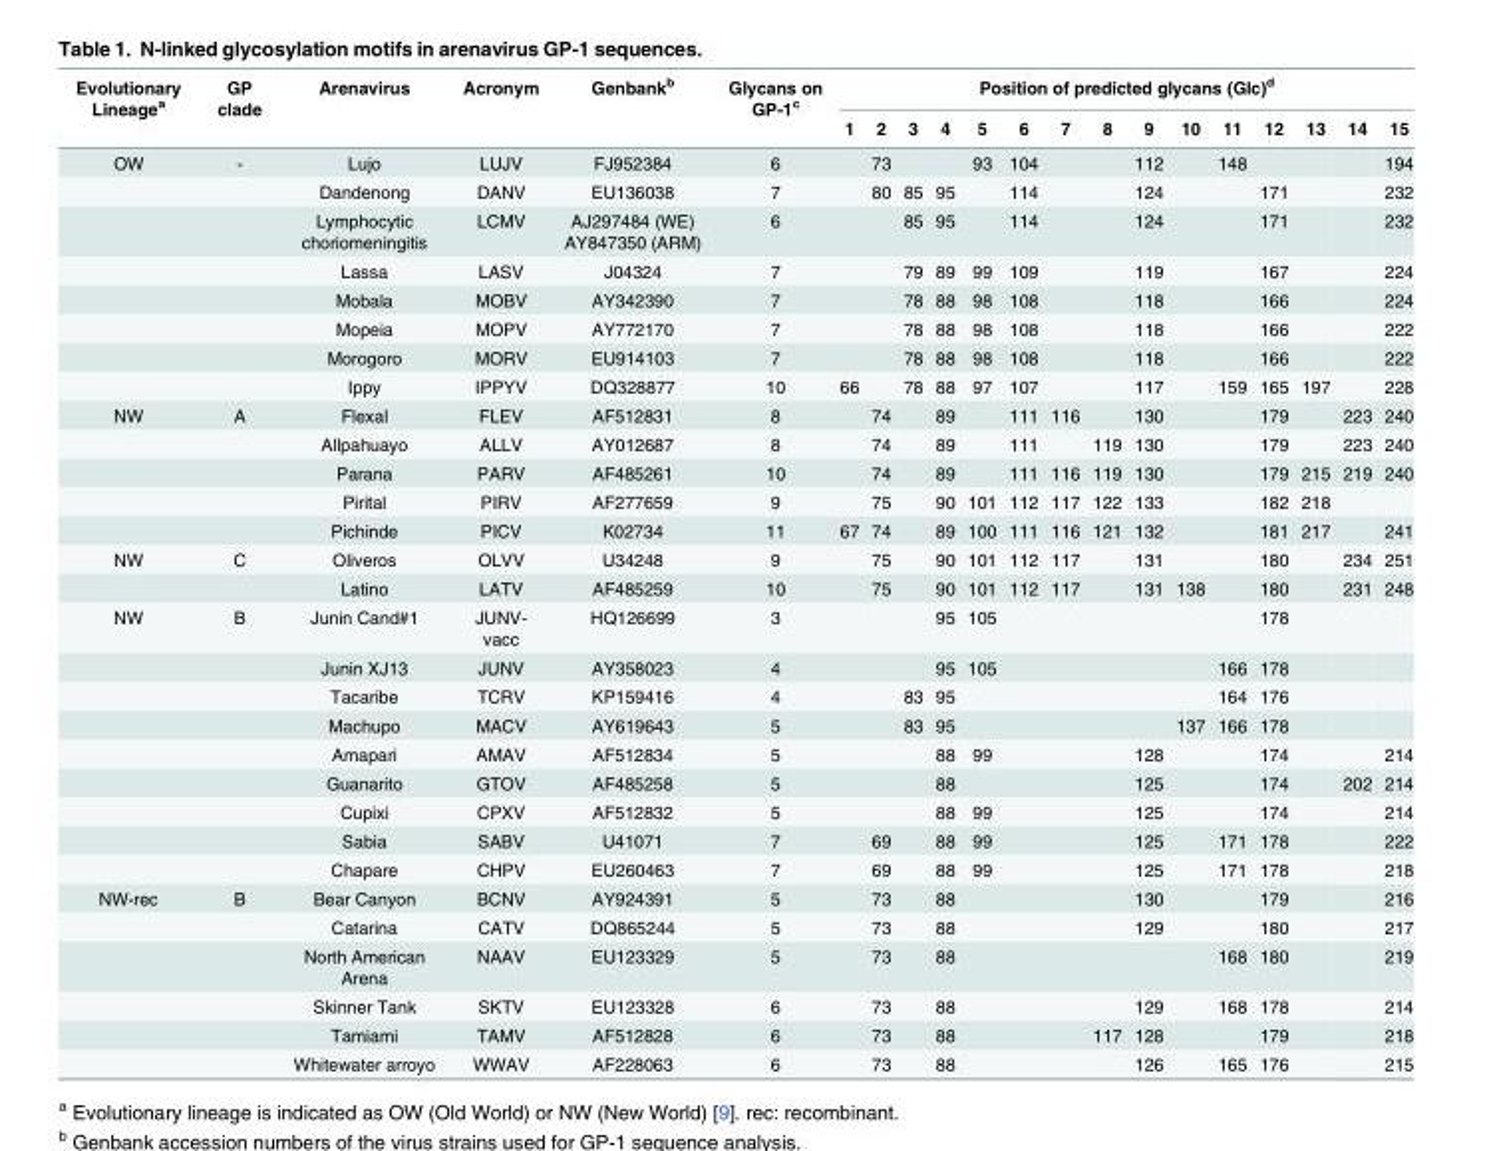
<table><thead><tr><td rowspan="2">Evolutionary Lineage<sup>a</sup></td><td rowspan="2">GP clade</td><td rowspan="2">Arenavirus</td><td rowspan="2">Acronym</td><td rowspan="2">Genbank<sup>b</sup></td><td rowspan="2">Glycans on GP-1<sup>c</sup></td><td colspan="15">Position of predicted glycans (Glc)<sup>d</sup></td></tr><tr><td>1</td><td>2</td><td>3</td><td>4</td><td>5</td><td>6</td><td>7</td><td>8</td><td>9</td><td>10</td><td>11</td><td>12</td><td>13</td><td>14</td><td>15</td></tr></thead><tbody><tr><td rowspan="8">OW</td><td>-</td><td>Lujo</td><td>LUJV</td><td>FJ952384</td><td>6</td><td></td><td>73</td><td></td><td></td><td>93</td><td>104</td><td></td><td></td><td>112</td><td></td><td>148</td><td></td><td></td><td></td><td>194</td></tr><tr><td></td><td>Dandenong</td><td>DANV</td><td>EU136038</td><td>7</td><td></td><td>80</td><td>85</td><td>95</td><td></td><td>114</td><td></td><td></td><td>124</td><td></td><td></td><td>171</td><td></td><td></td><td>232</td></tr><tr><td></td><td>Lymphocytic choriomeningitis</td><td>LCMV</td><td>AJ297484 (WE) AY847350 (ARM)</td><td>6</td><td></td><td></td><td>85</td><td>95</td><td></td><td>114</td><td></td><td></td><td>124</td><td></td><td></td><td>171</td><td></td><td></td><td>232</td></tr><tr><td></td><td>Lassa</td><td>LASV</td><td>J04324</td><td>7</td><td></td><td></td><td>79</td><td>89</td><td>99</td><td>109</td><td></td><td></td><td>119</td><td></td><td></td><td>167</td><td></td><td></td><td>224</td></tr><tr><td></td><td>Mobala</td><td>MOBV</td><td>AY342390</td><td>7</td><td></td><td></td><td>78</td><td>88</td><td>98</td><td>108</td><td></td><td></td><td>118</td><td></td><td></td><td>166</td><td></td><td></td><td>224</td></tr><tr><td></td><td>Mopeia</td><td>MOPV</td><td>AY772170</td><td>7</td><td></td><td></td><td>78</td><td>88</td><td>98</td><td>108</td><td></td><td></td><td>118</td><td></td><td></td><td>166</td><td></td><td></td><td>222</td></tr><tr><td></td><td>Morogoro</td><td>MORV</td><td>EU914103</td><td>7</td><td></td><td></td><td>78</td><td>88</td><td>98</td><td>108</td><td></td><td></td><td>118</td><td></td><td></td><td>166</td><td></td><td></td><td>222</td></tr><tr><td></td><td>Ippy</td><td>IPPYV</td><td>DQ328877</td><td>10</td><td>66</td><td></td><td>78</td><td>88</td><td>97</td><td>107</td><td></td><td></td><td>117</td><td></td><td>159</td><td>165</td><td>197</td><td></td><td>228</td></tr><tr><td rowspan="5">NW</td><td>A</td><td>Flexal</td><td>FLEV</td><td>AF512831</td><td>8</td><td></td><td>74</td><td></td><td>89</td><td></td><td>111</td><td>116</td><td></td><td>130</td><td></td><td></td><td>179</td><td></td><td>223</td><td>240</td></tr><tr><td></td><td>Allpahuayo</td><td>ALLV</td><td>AY012687</td><td>8</td><td></td><td>74</td><td></td><td>89</td><td></td><td>111</td><td></td><td>119</td><td>130</td><td></td><td></td><td>179</td><td></td><td>223</td><td>240</td></tr><tr><td></td><td>Parana</td><td>PARV</td><td>AF485261</td><td>10</td><td></td><td>74</td><td></td><td>89</td><td></td><td>111</td><td>116</td><td>119</td><td>130</td><td></td><td></td><td>179</td><td>215</td><td>219</td><td>240</td></tr><tr><td></td><td>Pirital</td><td>PIRV</td><td>AF277659</td><td>9</td><td></td><td>75</td><td></td><td>90</td><td>101</td><td>112</td><td>117</td><td>122</td><td>133</td><td></td><td></td><td>182</td><td>218</td><td></td><td></td></tr><tr><td></td><td>Pichinde</td><td>PICV</td><td>K02734</td><td>11</td><td>67</td><td>74</td><td></td><td>89</td><td>100</td><td>111</td><td>116</td><td>121</td><td>132</td><td></td><td></td><td>181</td><td>217</td><td></td><td>241</td></tr><tr><td rowspan="2">NW</td><td>C</td><td>Oliveros</td><td>OLVV</td><td>U34248</td><td>9</td><td></td><td>75</td><td></td><td>90</td><td>101</td><td>112</td><td>117</td><td></td><td>131</td><td></td><td></td><td>180</td><td></td><td>234</td><td>251</td></tr><tr><td></td><td>Latino</td><td>LATV</td><td>AF485259</td><td>10</td><td></td><td>75</td><td></td><td>90</td><td>101</td><td>112</td><td>117</td><td></td><td>131</td><td>138</td><td></td><td>180</td><td></td><td>231</td><td>248</td></tr><tr><td rowspan="9">NW</td><td>B</td><td>Junin Cand#1</td><td>JUNV- vacc</td><td>HQ126699</td><td>3</td><td></td><td></td><td></td><td>95</td><td>105</td><td></td><td></td><td></td><td></td><td></td><td></td><td>178</td><td></td><td></td><td></td></tr><tr><td></td><td>Junin XJ13</td><td>JUNV</td><td>AY358023</td><td>4</td><td></td><td></td><td></td><td>95</td><td>105</td><td></td><td></td><td></td><td></td><td></td><td>166</td><td>178</td><td></td><td></td><td></td></tr><tr><td></td><td>Tacaribe</td><td>TCRV</td><td>KP159416</td><td>4</td><td></td><td></td><td>83</td><td>95</td><td></td><td></td><td></td><td></td><td></td><td></td><td>164</td><td>176</td><td></td><td></td><td></td></tr><tr><td></td><td>Machupo</td><td>MACV</td><td>AY619643</td><td>5</td><td></td><td></td><td>83</td><td>95</td><td></td><td></td><td></td><td></td><td></td><td>137</td><td>166</td><td>178</td><td></td><td></td><td></td></tr><tr><td></td><td>Amapari</td><td>AMAV</td><td>AF512834</td><td>5</td><td></td><td></td><td></td><td>88</td><td>99</td><td></td><td></td><td></td><td>128</td><td></td><td></td><td>174</td><td></td><td></td><td>214</td></tr><tr><td></td><td>Guanarito</td><td>GTOV</td><td>AF485258</td><td>5</td><td></td><td></td><td></td><td>88</td><td></td><td></td><td></td><td></td><td>125</td><td></td><td></td><td>174</td><td></td><td>202</td><td>214</td></tr><tr><td></td><td>Cupixi</td><td>CPXV</td><td>AF512832</td><td>5</td><td></td><td></td><td></td><td>88</td><td>99</td><td></td><td></td><td></td><td>125</td><td></td><td></td><td>174</td><td></td><td></td><td>214</td></tr><tr><td></td><td>Sabia</td><td>SABV</td><td>U41071</td><td>7</td><td></td><td>69</td><td></td><td>88</td><td>99</td><td></td><td></td><td></td><td>125</td><td></td><td>171</td><td>178</td><td></td><td></td><td>222</td></tr><tr><td></td><td>Chapare</td><td>CHPV</td><td>EU260463</td><td>7</td><td></td><td>69</td><td></td><td>88</td><td>99</td><td></td><td></td><td></td><td>125</td><td></td><td>171</td><td>178</td><td></td><td></td><td>218</td></tr><tr><td rowspan="6">NW-rec</td><td>B</td><td>Bear Canyon</td><td>BCNV</td><td>AY924391</td><td>5</td><td></td><td>73</td><td></td><td>88</td><td></td><td></td><td></td><td></td><td>130</td><td></td><td></td><td>179</td><td></td><td></td><td>216</td></tr><tr><td></td><td>Catarina</td><td>CATV</td><td>DQ865244</td><td>5</td><td></td><td>73</td><td></td><td>88</td><td></td><td></td><td></td><td></td><td>129</td><td></td><td></td><td>180</td><td></td><td></td><td>217</td></tr><tr><td></td><td>North American Arena</td><td>NAAV</td><td>EU123329</td><td>5</td><td></td><td>73</td><td></td><td>88</td><td></td><td></td><td></td><td></td><td></td><td></td><td>168</td><td>180</td><td></td><td></td><td>219</td></tr><tr><td></td><td>Skinner Tank</td><td>SKTV</td><td>EU123328</td><td>6</td><td></td><td>73</td><td></td><td>88</td><td></td><td></td><td></td><td></td><td>129</td><td></td><td>168</td><td>178</td><td></td><td></td><td>214</td></tr><tr><td></td><td>Tamiami</td><td>TAMV</td><td>AF512828</td><td>6</td><td></td><td>73</td><td></td><td>88</td><td></td><td></td><td></td><td>117</td><td>128</td><td></td><td></td><td>179</td><td></td><td></td><td>218</td></tr><tr><td></td><td>Whitewater arroyo</td><td>WWAV</td><td>AF228063</td><td>6</td><td></td><td>73</td><td></td><td>88</td><td></td><td></td><td></td><td></td><td>126</td><td></td><td>165</td><td>176</td><td></td><td></td><td>215</td></tr></tbody></table>